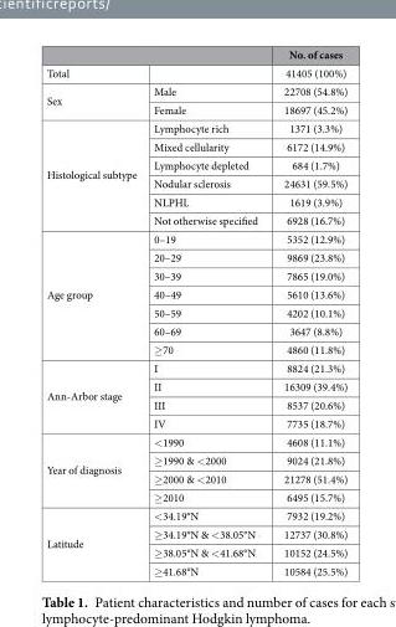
<table><thead><tr><td></td><td></td><td>No. of cases</td></tr></thead><tbody><tr><td>Total</td><td></td><td>41405 (100%)</td></tr><tr><td rowspan="2">Sex</td><td>Male</td><td>22708 (54.8%)</td></tr><tr><td>Female</td><td>18697 (45.2%)</td></tr><tr><td rowspan="6">Histological subtype</td><td>Lymphocyte rich</td><td>1371 (3.3%)</td></tr><tr><td>Mixed cellularity</td><td>6172 (14.9%)</td></tr><tr><td>Lymphocyte depleted</td><td>684 (1.7%)</td></tr><tr><td>Nodular sclerosis</td><td>24631 (59.5%)</td></tr><tr><td>NLPHL</td><td>1619 (3.9%)</td></tr><tr><td>Not otherwise specified</td><td>6928 (16.7%)</td></tr><tr><td rowspan="7">Age group</td><td>0–19</td><td>5352 (12.9%)</td></tr><tr><td>20–29</td><td>9869 (23.8%)</td></tr><tr><td>30–39</td><td>7865 (19.0%)</td></tr><tr><td>40–49</td><td>5610 (13.6%)</td></tr><tr><td>50–59</td><td>4202 (10.1%)</td></tr><tr><td>60–69</td><td>3647 (8.8%)</td></tr><tr><td>≥70</td><td>4860 (11.8%)</td></tr><tr><td rowspan="4">Ann-Arbor stage</td><td>I</td><td>8824 (21.3%)</td></tr><tr><td>II</td><td>16309 (39.4%)</td></tr><tr><td>III</td><td>8537 (20.6%)</td></tr><tr><td>IV</td><td>7735 (18.7%)</td></tr><tr><td rowspan="4">Year of diagnosis</td><td>&lt;1990</td><td>4608 (11.1%)</td></tr><tr><td>≥1990 &amp; &lt;2000</td><td>9024 (21.8%)</td></tr><tr><td>≥2000 &amp; &lt;2010</td><td>21278 (51.4%)</td></tr><tr><td>≥2010</td><td>6495 (15.7%)</td></tr><tr><td rowspan="4">Latitude</td><td>&lt;34.19°N</td><td>7932 (19.2%)</td></tr><tr><td>≥34.19°N &amp; &lt;38.05°N</td><td>12737 (30.8%)</td></tr><tr><td>≥38.05°N &amp; &lt;41.68°N</td><td>10152 (24.5%)</td></tr><tr><td>≥41.68°N</td><td>10584 (25.5%)</td></tr></tbody></table>